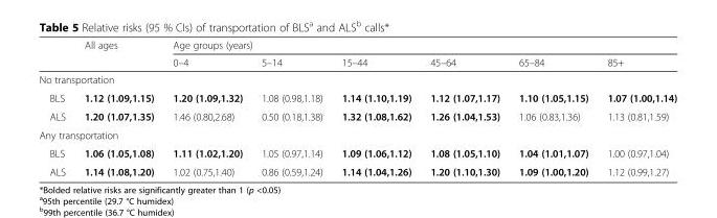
<table><thead><tr><td rowspan="2"></td><td rowspan="2">All ages</td><td colspan="6">Age groups (years)</td></tr><tr><td>0–4</td><td>5–14</td><td>15–44</td><td>45–64</td><td>65–84</td><td>85+</td></tr></thead><tbody><tr><td colspan="8">No transportation</td></tr><tr><td>BLS</td><td>1.12 (1.09,1.15)</td><td>1.20 (1.09,1.32)</td><td>1.08 (0.98,1.18)</td><td>1.14 (1.10,1.19)</td><td>1.12 (1.07,1.17)</td><td>1.10 (1.05,1.15)</td><td>1.07 (1.00,1.14)</td></tr><tr><td>ALS</td><td>1.20 (1.07,1.35)</td><td>1.46 (0.80,2.68)</td><td>0.50 (0.18,1.38)</td><td>1.32 (1.08,1.62)</td><td>1.26 (1.04,1.53)</td><td>1.06 (0.83,1.36)</td><td>1.13 (0.81,1.59)</td></tr><tr><td colspan="8">Any transportation</td></tr><tr><td>BLS</td><td>1.06 (1.05,1.08)</td><td>1.11 (1.02,1.20)</td><td>1.05 (0.97,1.14)</td><td>1.09 (1.06,1.12)</td><td>1.08 (1.05,1.10)</td><td>1.04 (1.01,1.07)</td><td>1.00 (0.97,1.04)</td></tr><tr><td>ALS</td><td>1.14 (1.08,1.20)</td><td>1.02 (0.75,1.40)</td><td>0.86 (0.59,1.24)</td><td>1.14 (1.04,1.26)</td><td>1.20 (1.10,1.30)</td><td>1.09 (1.00,1.20)</td><td>1.12 (0.99,1.27)</td></tr></tbody></table>